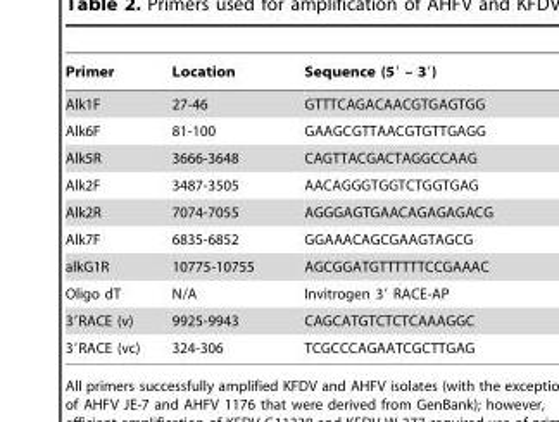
<table><thead><tr><td>Primer</td><td>Location</td><td>Sequence (5′ – 3′)</td></tr></thead><tbody><tr><td>Alk1F</td><td>27-46</td><td>GTTTCAGACAACGTGAGTGG</td></tr><tr><td>Alk6F</td><td>81-100</td><td>GAAGCGTTAACGTGTTGAGG</td></tr><tr><td>Alk5R</td><td>3666-3648</td><td>CAGTTACGACTAGGCCAAG</td></tr><tr><td>Alk2F</td><td>3487-3505</td><td>AACAGGGTGGTCTGGTGAG</td></tr><tr><td>Alk2R</td><td>7074-7055</td><td>AGGGAGTGAACAGAGAGACG</td></tr><tr><td>Alk7F</td><td>6835-6852</td><td>GGAAACAGCGAAGTAGCG</td></tr><tr><td>alkG1R</td><td>10775-10755</td><td>AGCGGATGTTTTTTCCGAAAC</td></tr><tr><td>Oligo dT</td><td>N/A</td><td>Invitrogen 3′ RACE-AP</td></tr><tr><td>3′RACE (v)</td><td>9925-9943</td><td>CAGCATGTCTCTCAAAGGC</td></tr><tr><td>3′RACE (vc)</td><td>324-306</td><td>TCGCCCAGAATCGCTTGAG</td></tr></tbody></table>